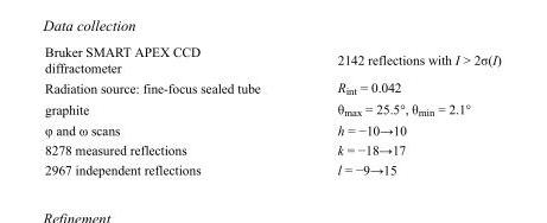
<table><tbody><tr><td>Bruker SMART APEX CCD diffractometer</td><td>2142 reflections with I &gt; 2σ(I)</td></tr><tr><td>Radiation source: fine-focus sealed tube</td><td>R<sub>int</sub> = 0.042</td></tr><tr><td>graphite</td><td>θ<sub>max</sub> = 25.5°, θ<sub>min</sub> = 2.1°</td></tr><tr><td>φ and ω scans</td><td>h = −10→10</td></tr><tr><td>8278 measured reflections</td><td>k = −18→17</td></tr><tr><td>2967 independent reflections</td><td>l = −9→15</td></tr></tbody></table>